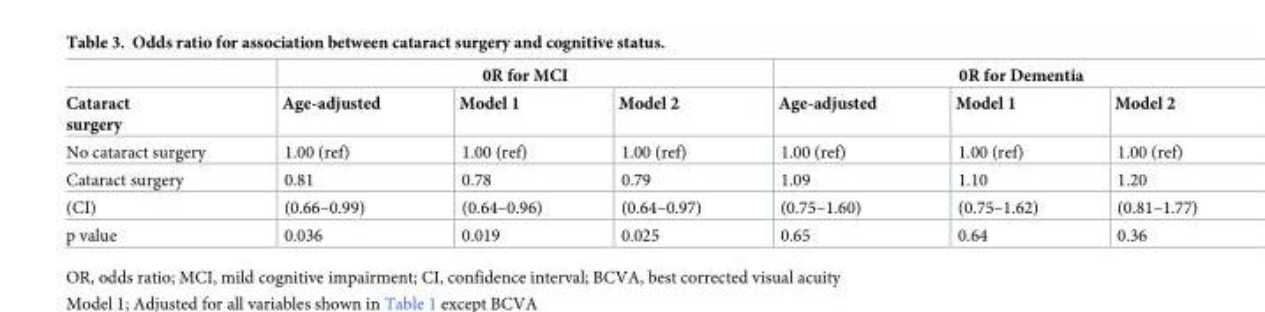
<table><thead><tr><td rowspan="2">Cataract surgery</td><td colspan="3">0R for MCI</td><td colspan="3">0R for Dementia</td></tr><tr><td>Age-adjusted</td><td>Model 1</td><td>Model 2</td><td>Age-adjusted</td><td>Model 1</td><td>Model 2</td></tr></thead><tbody><tr><td>No cataract surgery</td><td>1.00 (ref)</td><td>1.00 (ref)</td><td>1.00 (ref)</td><td>1.00 (ref)</td><td>1.00 (ref)</td><td>1.00 (ref)</td></tr><tr><td>Cataract surgery</td><td>0.81</td><td>0.78</td><td>0.79</td><td>1.09</td><td>1.10</td><td>1.20</td></tr><tr><td>(CI)</td><td>(0.66–0.99)</td><td>(0.64–0.96)</td><td>(0.64–0.97)</td><td>(0.75–1.60)</td><td>(0.75–1.62)</td><td>(0.81–1.77)</td></tr><tr><td>p value</td><td>0.036</td><td>0.019</td><td>0.025</td><td>0.65</td><td>0.64</td><td>0.36</td></tr></tbody></table>